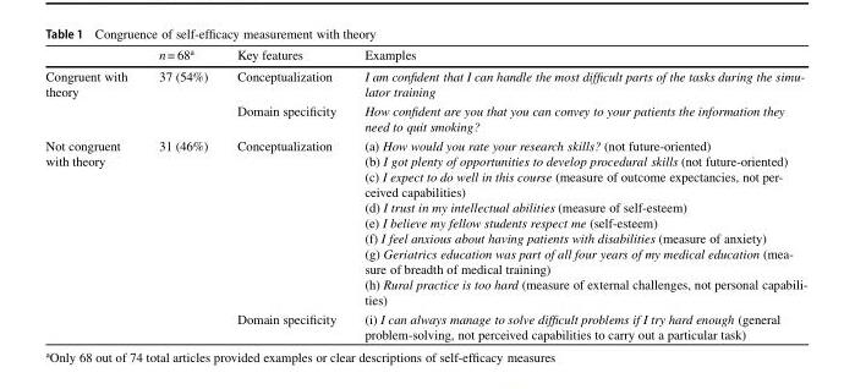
<table><thead><tr><td></td><td>n= 68<sup>a</sup></td><td>Key features</td><td>Examples</td></tr></thead><tbody><tr><td rowspan="2">Congruent with theory</td><td>37 (54%)</td><td>Conceptualization</td><td>I am confident that I can handle the most difficult parts of the tasks during the simu- lator training</td></tr><tr><td></td><td>Domain specificity</td><td>How confident are you that you can convey to your patients the information they need to quit smoking?</td></tr><tr><td rowspan="2">Not congruent with theory</td><td>31 (46%)</td><td>Conceptualization</td><td>(a) How would you rate your research skills? (not future-oriented) (b) I got plenty of opportunities to develop procedural skills (not future-oriented) (c) I expect to do well in this course (measure of outcome expectancies, not per- ceived capabilities) (d) I trust in my intellectual abilities (measure of self-esteem) (e) I believe my fellow students respect me (self-esteem) (f) I feel anxious about having patients with disabilities (measure of anxiety) (g) Geriatrics education was part of all four years of my medical education (mea- sure of breadth of medical training) (h) Rural practice is too hard (measure of external challenges, not personal capabili- ties)</td></tr><tr><td></td><td>Domain specificity</td><td>(i) I can always manage to solve difficult problems if I try hard enough (general problem-solving, not perceived capabilities to carry out a particular task)</td></tr></tbody></table>